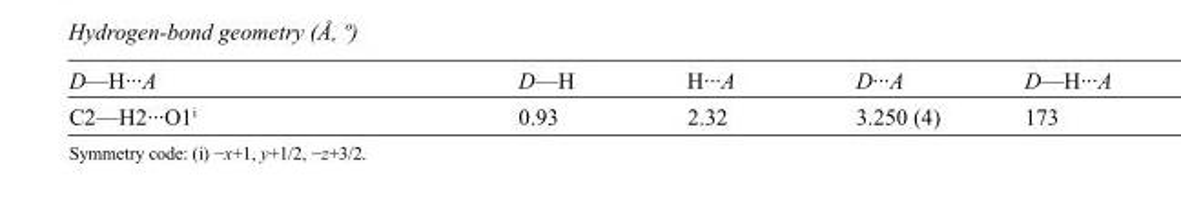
<table><tbody><tr><td>D—H···A</td><td>D—H</td><td>H···A</td><td>D···A</td><td>D—H···A</td></tr><tr><td>C2—H2···O1<sup>i</sup></td><td>0.93</td><td>2.32</td><td>3.250 (4)</td><td>173</td></tr></tbody></table>